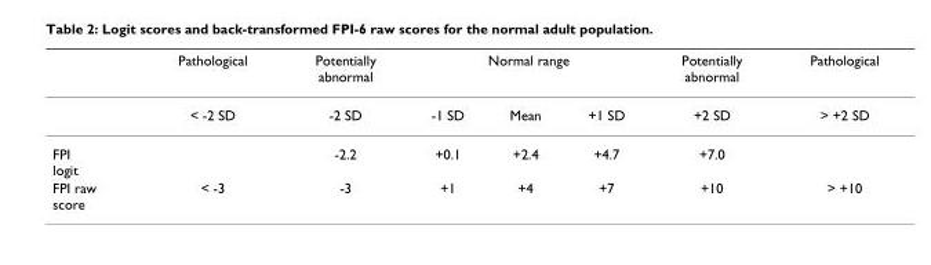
<table><thead><tr><td rowspan="2"></td><td rowspan="2">Pathological &lt; -2 SD</td><td rowspan="2">Potentially abnormal -2 SD</td><td colspan="3">Normal range</td><td rowspan="2">Potentially abnormal +2 SD</td><td rowspan="2">Pathological &gt; +2 SD</td></tr><tr><td>-1 SD</td><td>Mean</td><td>+1 SD</td></tr></thead><tbody><tr><td>FPI logit</td><td></td><td>-2.2</td><td>+0.1</td><td>+2.4</td><td>+4.7</td><td>+7.0</td><td></td></tr><tr><td>FPI raw score</td><td>&lt; -3</td><td>-3</td><td>+1</td><td>+4</td><td>+7</td><td>+10</td><td>&gt; +10</td></tr></tbody></table>